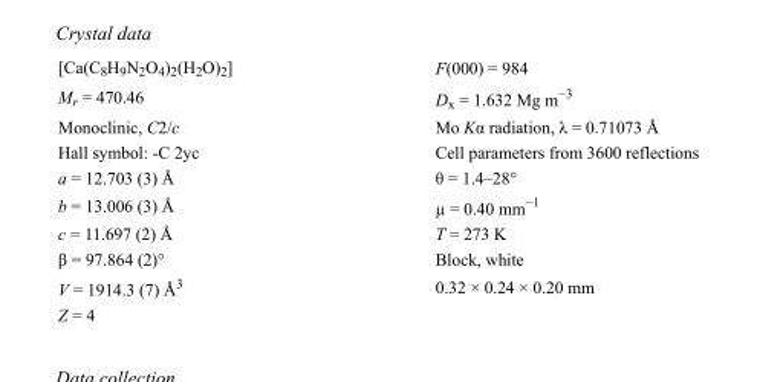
<table><tbody><tr><td>[Ca(C<sub>8</sub>H<sub>9</sub>N<sub>2</sub>O<sub>4</sub>)<sub>2</sub>(H<sub>2</sub>O)<sub>2</sub>]</td><td>F(000) = 984</td></tr><tr><td>M<sub>r</sub> = 470.46</td><td>D<sub>x</sub> = 1.632 Mg m<sup>−3</sup></td></tr><tr><td>Monoclinic, C2/c</td><td>Mo Kα radiation, λ = 0.71073 Å</td></tr><tr><td>Hall symbol: -C 2yc</td><td>Cell parameters from 3600 reflections</td></tr><tr><td>a = 12.703 (3) Å</td><td>θ = 1.4–28°</td></tr><tr><td>b = 13.006 (3) Å</td><td>µ = 0.40 mm<sup>−1</sup></td></tr><tr><td>c = 11.697 (2) Å</td><td>T = 273 K</td></tr><tr><td>β = 97.864 (2)°</td><td>Block, white</td></tr><tr><td>V = 1914.3 (7) Å<sup>3</sup></td><td>0.32 × 0.24 × 0.20 mm</td></tr><tr><td>Z = 4</td><td></td></tr></tbody></table>